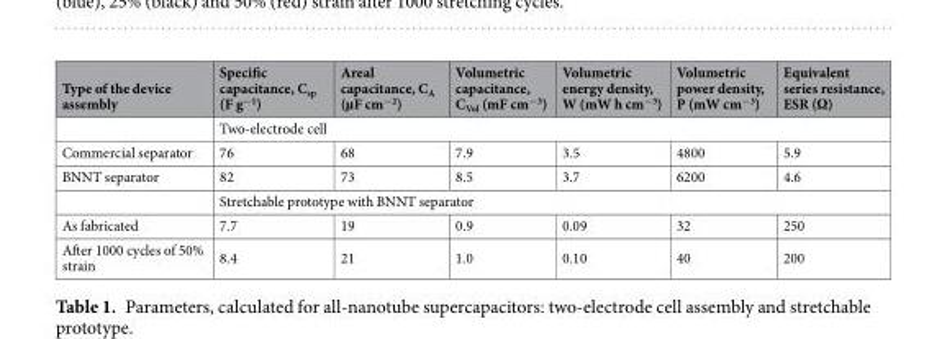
<table><thead><tr><td>Type of the device assembly</td><td>Specific capacitance, C<sub>sp</sub> (F g<sup>−1</sup>)</td><td>Areal capacitance, C<sub>A</sub> (µF cm<sup>−2</sup>)</td><td>Volumetric capacitance, C<sub>Vol</sub> (mF cm<sup>−3</sup>)</td><td>Volumetric energy density, W (mW h cm<sup>−3</sup>)</td><td>Volumetric power density, P (mW cm<sup>−3</sup>)</td><td>Equivalent series resistance, ESR (Ω)</td></tr></thead><tbody><tr><td></td><td colspan="6">Two-electrode cell</td></tr><tr><td>Commercial separator</td><td>76</td><td>68</td><td>7.9</td><td>3.5</td><td>4800</td><td>5.9</td></tr><tr><td rowspan="2">BNNT separator</td><td>82</td><td>73</td><td>8.5</td><td>3.7</td><td>6200</td><td>4.6</td></tr><tr><td colspan="6">Stretchable prototype with BNNT separator</td></tr><tr><td>As fabricated</td><td>7.7</td><td>19</td><td>0.9</td><td>0.09</td><td>32</td><td>250</td></tr><tr><td>After 1000 cycles of 50% strain</td><td>8.4</td><td>21</td><td>1.0</td><td>0.10</td><td>40</td><td>200</td></tr></tbody></table>